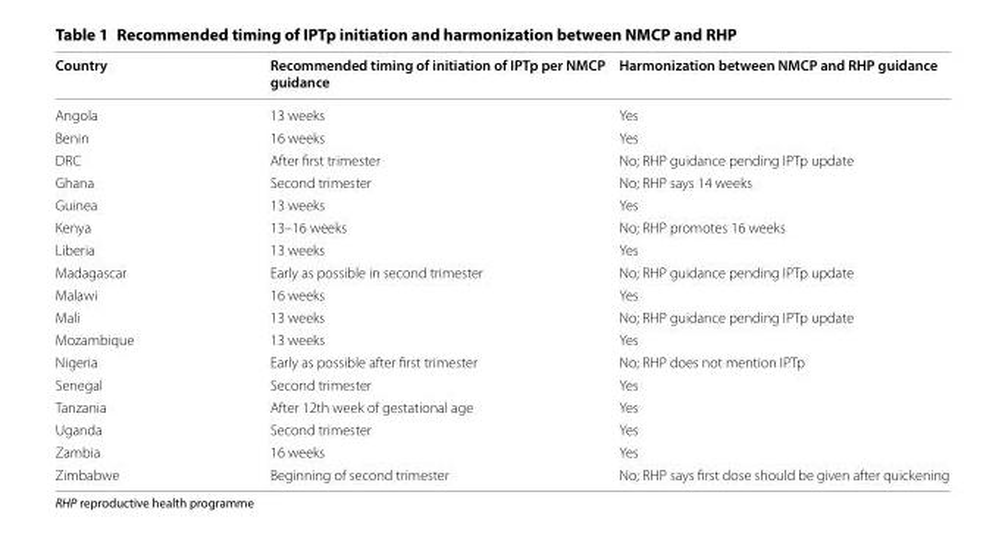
<table><thead><tr><td>Country</td><td>Recommended timing of initiation of IPTp per NMCP guidance</td><td>Harmonization between NMCP and RHP guidance</td></tr></thead><tbody><tr><td>Angola</td><td>13 weeks</td><td>Yes</td></tr><tr><td>Benin</td><td>16 weeks</td><td>Yes</td></tr><tr><td>DRC</td><td>After first trimester</td><td>No; RHP guidance pending IPTp update</td></tr><tr><td>Ghana</td><td>Second trimester</td><td>No; RHP says 14 weeks</td></tr><tr><td>Guinea</td><td>13 weeks</td><td>Yes</td></tr><tr><td>Kenya</td><td>13–16 weeks</td><td>No; RHP promotes 16 weeks</td></tr><tr><td>Liberia</td><td>13 weeks</td><td>Yes</td></tr><tr><td>Madagascar</td><td>Early as possible in second trimester</td><td>No; RHP guidance pending IPTp update</td></tr><tr><td>Malawi</td><td>16 weeks</td><td>Yes</td></tr><tr><td>Mali</td><td>13 weeks</td><td>No; RHP guidance pending IPTp update</td></tr><tr><td>Mozambique</td><td>13 weeks</td><td>Yes</td></tr><tr><td>Nigeria</td><td>Early as possible after first trimester</td><td>No; RHP does not mention IPTp</td></tr><tr><td>Senegal</td><td>Second trimester</td><td>Yes</td></tr><tr><td>Tanzania</td><td>After 12th week of gestational age</td><td>Yes</td></tr><tr><td>Uganda</td><td>Second trimester</td><td>Yes</td></tr><tr><td>Zambia</td><td>16 weeks</td><td>Yes</td></tr><tr><td>Zimbabwe</td><td>Beginning of second trimester</td><td>No; RHP says first dose should be given after quickening</td></tr></tbody></table>